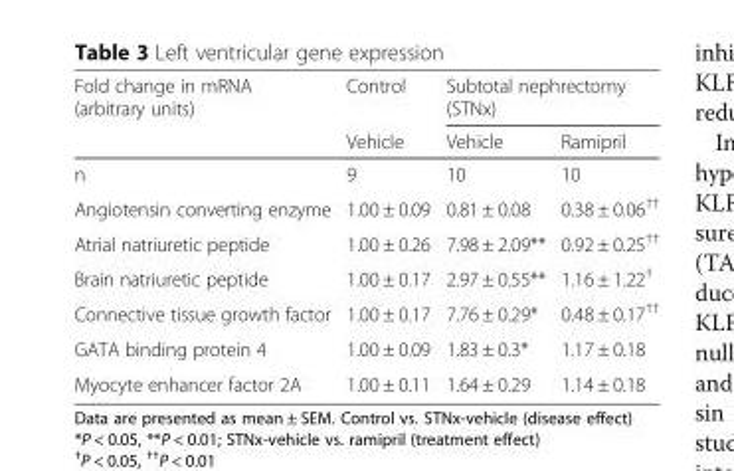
<table><thead><tr><td rowspan="2">Fold change in mRNA (arbitrary units)</td><td rowspan="2">Control Vehicle</td><td colspan="2">Subtotal nephrectomy (STNx)</td></tr><tr><td>Vehicle</td><td>Ramipril</td></tr></thead><tbody><tr><td>n</td><td>9</td><td>10</td><td>10</td></tr><tr><td>Angiotensin converting enzyme</td><td>1.00 ± 0.09</td><td>0.81 ± 0.08</td><td>0.38 ± 0.06<sup>††</sup></td></tr><tr><td>Atrial natriuretic peptide</td><td>1.00 ± 0.26</td><td>7.98 ± 2.09**</td><td>0.92 ± 0.25<sup>††</sup></td></tr><tr><td>Brain natriuretic peptide</td><td>1.00 ± 0.17</td><td>2.97 ± 0.55**</td><td>1.16 ± 1.22<sup>†</sup></td></tr><tr><td>Connective tissue growth factor</td><td>1.00 ± 0.17</td><td>7.76 ± 0.29*</td><td>0.48 ± 0.17<sup>††</sup></td></tr><tr><td>GATA binding protein 4</td><td>1.00 ± 0.09</td><td>1.83 ± 0.3*</td><td>1.17 ± 0.18</td></tr><tr><td>Myocyte enhancer factor 2A</td><td>1.00 ± 0.11</td><td>1.64 ± 0.29</td><td>1.14 ± 0.18</td></tr></tbody></table>